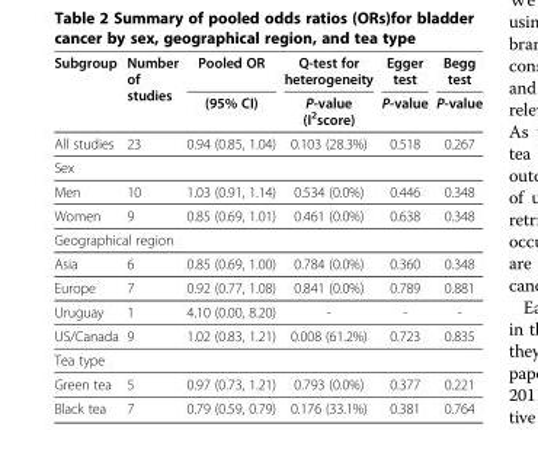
<table><thead><tr><td rowspan="2">Subgroup</td><td rowspan="2">Number of studies</td><td rowspan="2">Pooled OR (95% CI)</td><td rowspan="2">Q-test for heterogeneity P-value (I<sup>2</sup>score)</td><td rowspan="2">Egger test P-value</td><td rowspan="2">Begg test P-value</td></tr><tr></tr></thead><tbody><tr><td>All studies</td><td>23</td><td>0.94 (0.85, 1.04)</td><td>0.103 (28.3%)</td><td>0.518</td><td>0.267</td></tr><tr><td colspan="6">Sex</td></tr><tr><td>Men</td><td>10</td><td>1.03 (0.91, 1.14)</td><td>0.534 (0.0%)</td><td>0.446</td><td>0.348</td></tr><tr><td>Women</td><td>9</td><td>0.85 (0.69, 1.01)</td><td>0.461 (0.0%)</td><td>0.638</td><td>0.348</td></tr><tr><td colspan="6">Geographical region</td></tr><tr><td>Asia</td><td>6</td><td>0.85 (0.69, 1.00)</td><td>0.784 (0.0%)</td><td>0.360</td><td>0.348</td></tr><tr><td>Europe</td><td>7</td><td>0.92 (0.77, 1.08)</td><td>0.841 (0.0%)</td><td>0.789</td><td>0.881</td></tr><tr><td>Uruguay</td><td>1</td><td>4.10 (0.00, 8.20)</td><td>-</td><td>-</td><td>-</td></tr><tr><td>US/Canada</td><td>9</td><td>1.02 (0.83, 1.21)</td><td>0.008 (61.2%)</td><td>0.723</td><td>0.835</td></tr><tr><td colspan="6">Tea type</td></tr><tr><td>Green tea</td><td>5</td><td>0.97 (0.73, 1.21)</td><td>0.793 (0.0%)</td><td>0.377</td><td>0.221</td></tr><tr><td>Black tea</td><td>7</td><td>0.79 (0.59, 0.79)</td><td>0.176 (33.1%)</td><td>0.381</td><td>0.764</td></tr></tbody></table>